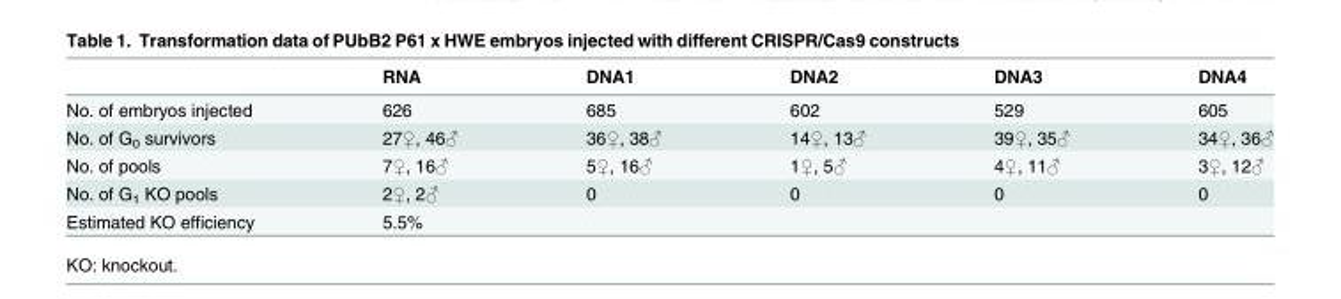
<table><thead><tr><td></td><td>RNA</td><td>DNA1</td><td>DNA2</td><td>DNA3</td><td>DNA4</td></tr></thead><tbody><tr><td>No. of embryos injected</td><td>626</td><td>685</td><td>602</td><td>529</td><td>605</td></tr><tr><td>No. of G<sub>0</sub> survivors</td><td>27♀, 46♂</td><td>36♀, 38♂</td><td>14♀, 13♂</td><td>39♀, 35♂</td><td>34♀, 36♂</td></tr><tr><td>No. of pools</td><td>7♀, 16♂</td><td>5♀, 16♂</td><td>1♀, 5♂</td><td>4♀, 11♂</td><td>3♀, 12♂</td></tr><tr><td>No. of G<sub>1</sub> KO pools</td><td>2♀, 2♂</td><td>0</td><td>0</td><td>0</td><td>0</td></tr><tr><td>Estimated KO efficiency</td><td>5.5%</td><td></td><td></td><td></td><td></td></tr></tbody></table>